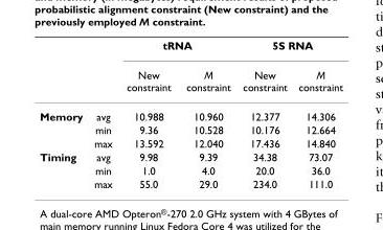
<table><thead><tr><td rowspan="2"></td><td rowspan="2"></td><td colspan="2">tRNA</td><td colspan="2">5S RNA</td></tr><tr><td>New constraint</td><td>M constraint</td><td>New constraint</td><td>M constraint</td></tr></thead><tbody><tr><td rowspan="3">Memory</td><td>avg</td><td>10.988</td><td>10.960</td><td>12.377</td><td>14.306</td></tr><tr><td>min</td><td>9.36</td><td>10.528</td><td>10.176</td><td>12.664</td></tr><tr><td>max</td><td>13.592</td><td>12.040</td><td>17.436</td><td>14.840</td></tr><tr><td rowspan="3">Timing</td><td>avg</td><td>9.98</td><td>9.39</td><td>34.38</td><td>73.07</td></tr><tr><td>min</td><td>1.0</td><td>4.0</td><td>20.0</td><td>36.0</td></tr><tr><td>max</td><td>55.0</td><td>29.0</td><td>234.0</td><td>111.0</td></tr></tbody></table>